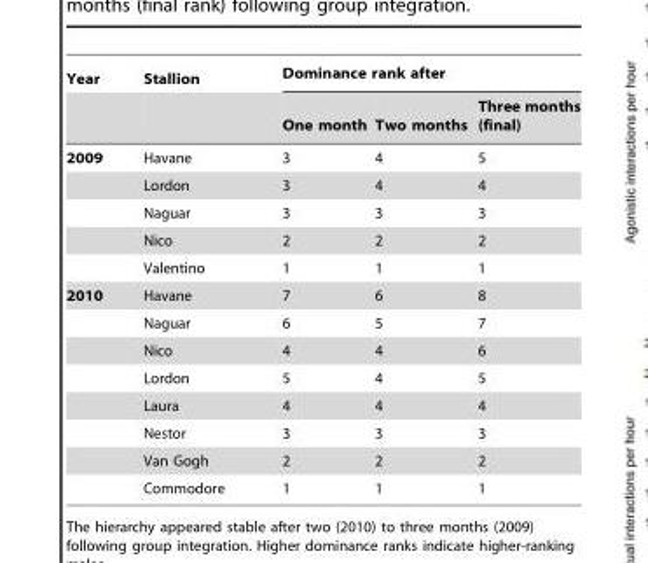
<table><thead><tr><td rowspan="2">Year</td><td rowspan="2">Stallion</td><td colspan="3">Dominance rank after</td></tr><tr><td>One month</td><td>Two months</td><td>Three months (final)</td></tr></thead><tbody><tr><td rowspan="5">2009</td><td>Havane</td><td>3</td><td>4</td><td>5</td></tr><tr><td>Lordon</td><td>3</td><td>4</td><td>4</td></tr><tr><td>Naguar</td><td>3</td><td>3</td><td>3</td></tr><tr><td>Nico</td><td>2</td><td>2</td><td>2</td></tr><tr><td>Valentino</td><td>1</td><td>1</td><td>1</td></tr><tr><td rowspan="8">2010</td><td>Havane</td><td>7</td><td>6</td><td>8</td></tr><tr><td>Naguar</td><td>6</td><td>5</td><td>7</td></tr><tr><td>Nico</td><td>4</td><td>4</td><td>6</td></tr><tr><td>Lordon</td><td>5</td><td>4</td><td>5</td></tr><tr><td>Laura</td><td>4</td><td>4</td><td>4</td></tr><tr><td>Nestor</td><td>3</td><td>3</td><td>3</td></tr><tr><td>Van Gogh</td><td>2</td><td>2</td><td>2</td></tr><tr><td>Commodore</td><td>1</td><td>1</td><td>1</td></tr></tbody></table>